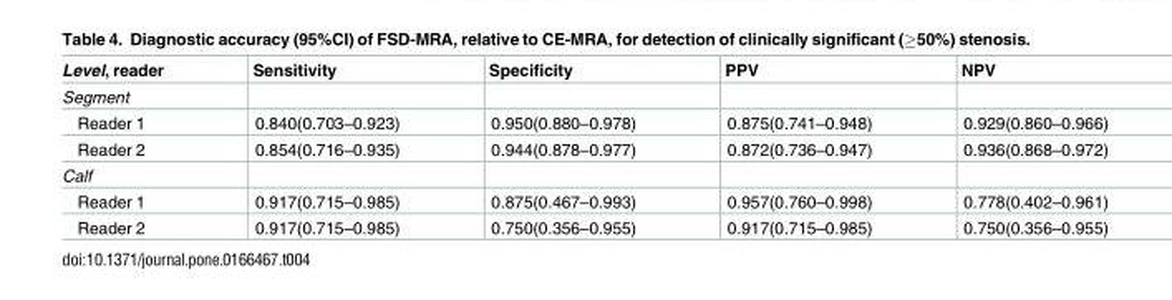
<table><thead><tr><td>Level, reader</td><td>Sensitivity</td><td>Specificity</td><td>PPV</td><td>NPV</td></tr></thead><tbody><tr><td colspan="5">Segment</td></tr><tr><td>Reader 1</td><td>0.840(0.703–0.923)</td><td>0.950(0.880–0.978)</td><td>0.875(0.741–0.948)</td><td>0.929(0.860–0.966)</td></tr><tr><td>Reader 2</td><td>0.854(0.716–0.935)</td><td>0.944(0.878–0.977)</td><td>0.872(0.736–0.947)</td><td>0.936(0.868–0.972)</td></tr><tr><td colspan="5">Calf</td></tr><tr><td>Reader 1</td><td>0.917(0.715–0.985)</td><td>0.875(0.467–0.993)</td><td>0.957(0.760–0.998)</td><td>0.778(0.402–0.961)</td></tr><tr><td>Reader 2</td><td>0.917(0.715–0.985)</td><td>0.750(0.356–0.955)</td><td>0.917(0.715–0.985)</td><td>0.750(0.356–0.955)</td></tr></tbody></table>